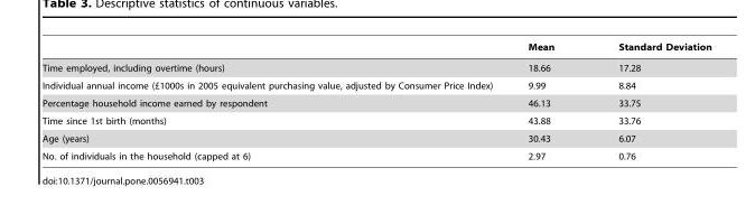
<table><thead><tr><td></td><td>Mean</td><td>Standard Deviation</td></tr></thead><tbody><tr><td>Time employed, including overtime (hours)</td><td>18.66</td><td>17.28</td></tr><tr><td>Individual annual income (£1000s in 2005 equivalent purchasing value, adjusted by Consumer Price Index)</td><td>9.99</td><td>8.84</td></tr><tr><td>Percentage household income earned by respondent</td><td>46.13</td><td>33.75</td></tr><tr><td>Time since 1st birth (months)</td><td>43.88</td><td>33.76</td></tr><tr><td>Age (years)</td><td>30.43</td><td>6.07</td></tr><tr><td>No. of individuals in the household (capped at 6)</td><td>2.97</td><td>0.76</td></tr></tbody></table>